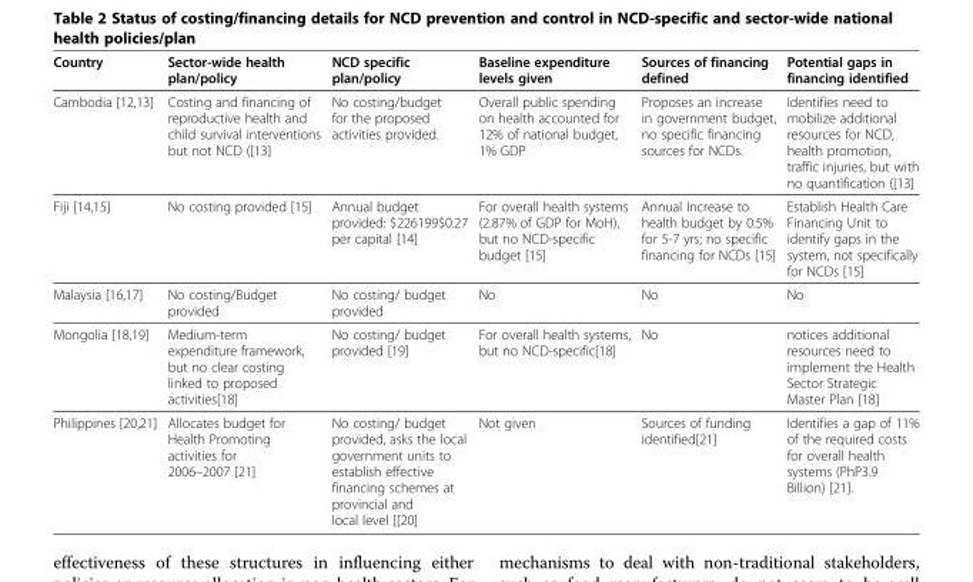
<table><thead><tr><td>Country</td><td>Sector-wide health plan/policy</td><td>NCD specific plan/policy</td><td>Baseline expenditure levels given</td><td>Sources of financing defined</td><td>Potential gaps in financing identified</td></tr></thead><tbody><tr><td>Cambodia [12,13]</td><td>Costing and financing of reproductive health and child survival interventions but not NCD ([13]</td><td>No costing/budget for the proposed activities provided.</td><td>Overall public spending on health accounted for 12% of national budget, 1% GDP</td><td>Proposes an increase in government budget, no specific financing sources for NCDs.</td><td>Identifies need to mobilize additional resources for NCD, health promotion, traffic injuries, but with no quantification ([13]</td></tr><tr><td>Fiji [14,15]</td><td>No costing provided [15]</td><td>Annual budget provided: $226199$0.27 per capital [14]</td><td>For overall health systems (2.87% of GDP for MoH), but no NCD-specific budget [15]</td><td>Annual Increase to health budget by 0.5% for 5-7 yrs; no specific financing for NCDs [15]</td><td>Establish Health Care Financing Unit to identify gaps in the system, not specifically for NCDs [15]</td></tr><tr><td>Malaysia [16,17]</td><td>No costing/Budget provided</td><td>No costing/ budget provided</td><td>No</td><td>No</td><td>No</td></tr><tr><td>Mongolia [18,19]</td><td>Medium-term expenditure framework, but no clear costing linked to proposed activities[18]</td><td>No costing/ budget provided [19]</td><td>For overall health systems, but no NCD-specific[18]</td><td>No</td><td>notices additional resources need to implement the Health Sector Strategic Master Plan [18]</td></tr><tr><td>Philippines [20,21]</td><td>Allocates budget for Health Promoting activities for 2006–2007 [21]</td><td>No costing/ budget provided, asks the local government units to establish effective financing schemes at provincial and local level [[20]</td><td>Not given</td><td>Sources of funding identified[21]</td><td>Identifies a gap of 11% of the required costs for overall health systems (PhP3.9 Billion) [21].</td></tr></tbody></table>